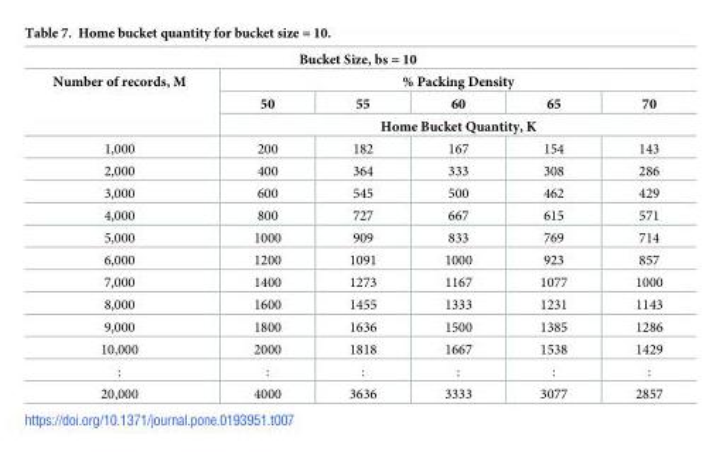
<table><thead><tr><td colspan="6">Bucket Size, bs = 10</td></tr><tr><td rowspan="3">Number of records, M</td><td colspan="5">% Packing Density</td></tr><tr><td>50</td><td>55</td><td>60</td><td>65</td><td>70</td></tr><tr><td colspan="5">Home Bucket Quantity, K</td></tr></thead><tbody><tr><td>1,000</td><td>200</td><td>182</td><td>167</td><td>154</td><td>143</td></tr><tr><td>2,000</td><td>400</td><td>364</td><td>333</td><td>308</td><td>286</td></tr><tr><td>3,000</td><td>600</td><td>545</td><td>500</td><td>462</td><td>429</td></tr><tr><td>4,000</td><td>800</td><td>727</td><td>667</td><td>615</td><td>571</td></tr><tr><td>5,000</td><td>1000</td><td>909</td><td>833</td><td>769</td><td>714</td></tr><tr><td>6,000</td><td>1200</td><td>1091</td><td>1000</td><td>923</td><td>857</td></tr><tr><td>7,000</td><td>1400</td><td>1273</td><td>1167</td><td>1077</td><td>1000</td></tr><tr><td>8,000</td><td>1600</td><td>1455</td><td>1333</td><td>1231</td><td>1143</td></tr><tr><td>9,000</td><td>1800</td><td>1636</td><td>1500</td><td>1385</td><td>1286</td></tr><tr><td>10,000</td><td>2000</td><td>1818</td><td>1667</td><td>1538</td><td>1429</td></tr><tr><td>:</td><td>:</td><td>:</td><td>:</td><td>:</td><td>:</td></tr><tr><td>20,000</td><td>4000</td><td>3636</td><td>3333</td><td>3077</td><td>2857</td></tr></tbody></table>